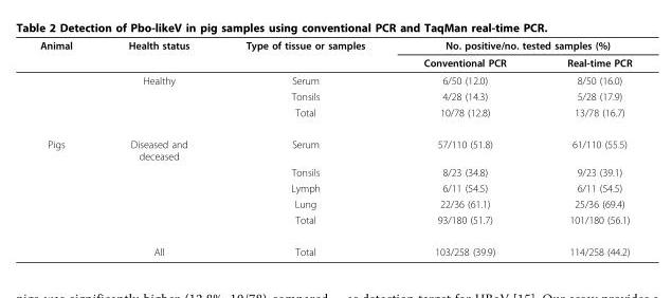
<table><thead><tr><td rowspan="2">Animal</td><td rowspan="2">Health status</td><td rowspan="2">Type of tissue or samples</td><td colspan="2">No. positive/no. tested samples (%)</td></tr><tr><td>Conventional PCR</td><td>Real-time PCR</td></tr></thead><tbody><tr><td></td><td>Healthy</td><td>Serum</td><td>6/50 (12.0)</td><td>8/50 (16.0)</td></tr><tr><td></td><td></td><td>Tonsils</td><td>4/28 (14.3)</td><td>5/28 (17.9)</td></tr><tr><td></td><td></td><td>Total</td><td>10/78 (12.8)</td><td>13/78 (16.7)</td></tr><tr><td rowspan="6">Pigs</td><td>Diseased and deceased</td><td>Serum</td><td>57/110 (51.8)</td><td>61/110 (55.5)</td></tr><tr><td></td><td>Tonsils</td><td>8/23 (34.8)</td><td>9/23 (39.1)</td></tr><tr><td></td><td>Lymph</td><td>6/11 (54.5)</td><td>6/11 (54.5)</td></tr><tr><td></td><td>Lung</td><td>22/36 (61.1)</td><td>25/36 (69.4)</td></tr><tr><td></td><td>Total</td><td>93/180 (51.7)</td><td>101/180 (56.1)</td></tr><tr><td>All</td><td>Total</td><td>103/258 (39.9)</td><td>114/258 (44.2)</td></tr></tbody></table>